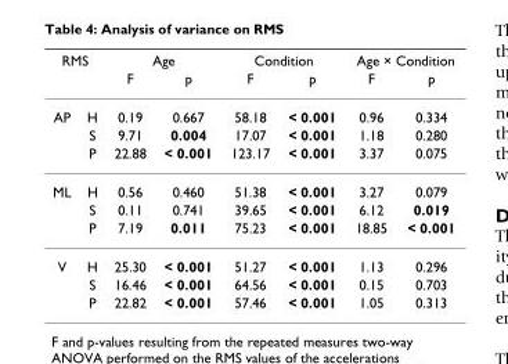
<table><thead><tr><td colspan="2">RMS</td><td colspan="2">Age</td><td colspan="2">Condition</td><td colspan="2">Age × Condition</td></tr><tr><td></td><td></td><td>F</td><td>p</td><td>F</td><td>p</td><td>F</td><td>p</td></tr></thead><tbody><tr><td rowspan="3">AP</td><td>H</td><td>0.19</td><td>0.667</td><td>58.18</td><td>&lt; 0.001</td><td>0.96</td><td>0.334</td></tr><tr><td>S</td><td>9.71</td><td>0.004</td><td>17.07</td><td>&lt; 0.001</td><td>1.18</td><td>0.280</td></tr><tr><td>P</td><td>22.88</td><td>&lt; 0.001</td><td>123.17</td><td>&lt; 0.001</td><td>3.37</td><td>0.075</td></tr><tr><td rowspan="3">ML</td><td>H</td><td>0.56</td><td>0.460</td><td>51.38</td><td>&lt; 0.001</td><td>3.27</td><td>0.079</td></tr><tr><td>S</td><td>0.11</td><td>0.741</td><td>39.65</td><td>&lt; 0.001</td><td>6.12</td><td>0.019</td></tr><tr><td>P</td><td>7.19</td><td>0.011</td><td>75.23</td><td>&lt; 0.001</td><td>18.85</td><td>&lt; 0.001</td></tr><tr><td rowspan="3">V</td><td>H</td><td>25.30</td><td>&lt; 0.001</td><td>51.27</td><td>&lt; 0.001</td><td>1.13</td><td>0.296</td></tr><tr><td>S</td><td>16.46</td><td>&lt; 0.001</td><td>64.56</td><td>&lt; 0.001</td><td>0.15</td><td>0.703</td></tr><tr><td>P</td><td>22.82</td><td>&lt; 0.001</td><td>57.46</td><td>&lt; 0.001</td><td>1.05</td><td>0.313</td></tr></tbody></table>